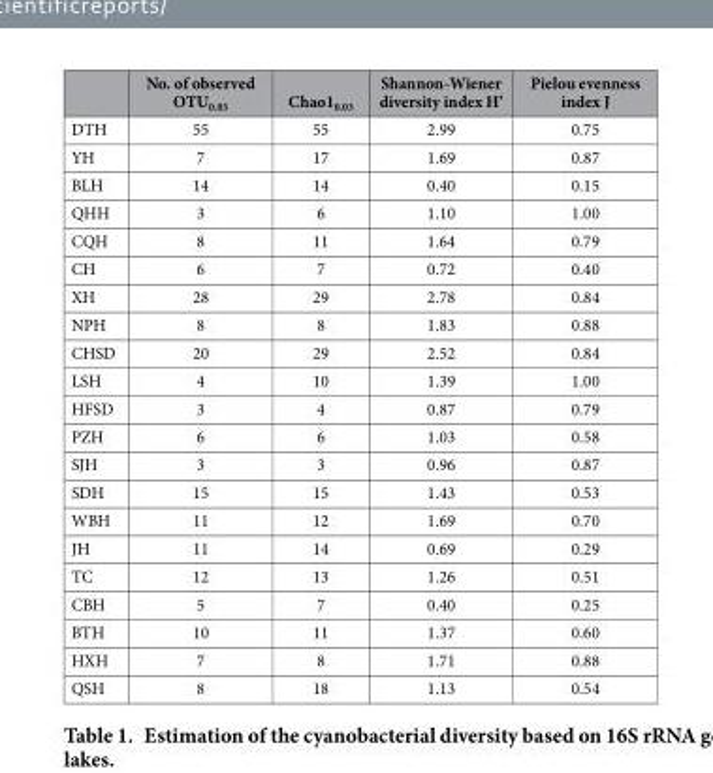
<table><thead><tr><td></td><td>No. of observed OTU<sub>0.03</sub></td><td>Chao1<sub>0.03</sub></td><td>Shannon-Wiener diversity index H’</td><td>Pielou evenness index J</td></tr></thead><tbody><tr><td>DTH</td><td>55</td><td>55</td><td>2.99</td><td>0.75</td></tr><tr><td>YH</td><td>7</td><td>17</td><td>1.69</td><td>0.87</td></tr><tr><td>BLH</td><td>14</td><td>14</td><td>0.40</td><td>0.15</td></tr><tr><td>QHH</td><td>3</td><td>6</td><td>1.10</td><td>1.00</td></tr><tr><td>CQH</td><td>8</td><td>11</td><td>1.64</td><td>0.79</td></tr><tr><td>CH</td><td>6</td><td>7</td><td>0.72</td><td>0.40</td></tr><tr><td>XH</td><td>28</td><td>29</td><td>2.78</td><td>0.84</td></tr><tr><td>NPH</td><td>8</td><td>8</td><td>1.83</td><td>0.88</td></tr><tr><td>CHSD</td><td>20</td><td>29</td><td>2.52</td><td>0.84</td></tr><tr><td>LSH</td><td>4</td><td>10</td><td>1.39</td><td>1.00</td></tr><tr><td>HFSD</td><td>3</td><td>4</td><td>0.87</td><td>0.79</td></tr><tr><td>PZH</td><td>6</td><td>6</td><td>1.03</td><td>0.58</td></tr><tr><td>SJH</td><td>3</td><td>3</td><td>0.96</td><td>0.87</td></tr><tr><td>SDH</td><td>15</td><td>15</td><td>1.43</td><td>0.53</td></tr><tr><td>WBH</td><td>11</td><td>12</td><td>1.69</td><td>0.70</td></tr><tr><td>JH</td><td>11</td><td>14</td><td>0.69</td><td>0.29</td></tr><tr><td>TC</td><td>12</td><td>13</td><td>1.26</td><td>0.51</td></tr><tr><td>CBH</td><td>5</td><td>7</td><td>0.40</td><td>0.25</td></tr><tr><td>BTH</td><td>10</td><td>11</td><td>1.37</td><td>0.60</td></tr><tr><td>HXH</td><td>7</td><td>8</td><td>1.71</td><td>0.88</td></tr><tr><td>QSH</td><td>8</td><td>18</td><td>1.13</td><td>0.54</td></tr></tbody></table>